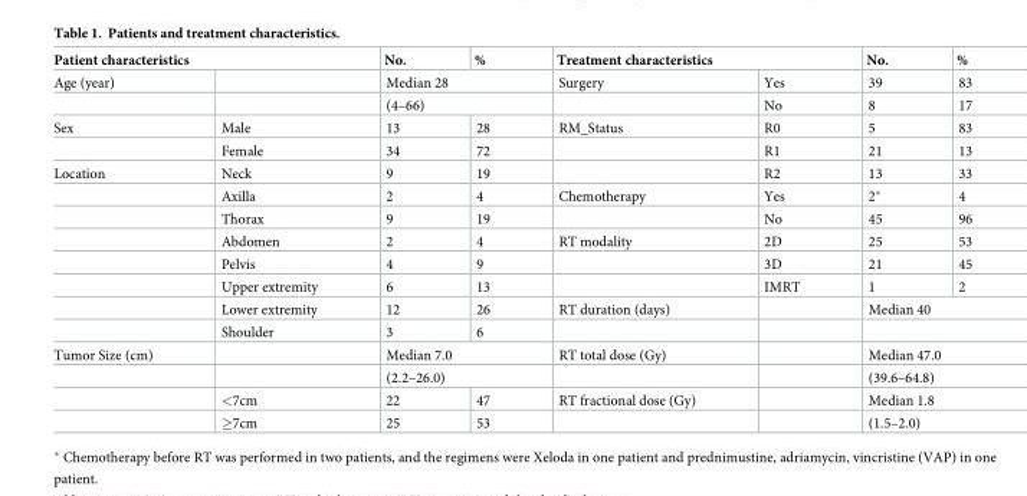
<table><thead><tr><td colspan="2">Patient characteristics</td><td>No.</td><td>%</td><td colspan="2">Treatment characteristics</td><td rowspan="2">No. 39</td><td rowspan="2">% 83</td></tr><tr><td>Age (year)</td><td></td><td colspan="2">Median 28</td><td>Surgery</td><td>Yes</td></tr></thead><tbody><tr><td></td><td></td><td colspan="2">(4–66)</td><td></td><td>No</td><td>8</td><td>17</td></tr><tr><td rowspan="2">Sex</td><td>Male</td><td>13</td><td>28</td><td>RM_Status</td><td>R0</td><td>5</td><td>83</td></tr><tr><td>Female</td><td>34</td><td>72</td><td></td><td>R1</td><td>21</td><td>13</td></tr><tr><td rowspan="8">Location</td><td>Neck</td><td>9</td><td>19</td><td></td><td>R2</td><td>13</td><td>33</td></tr><tr><td>Axilla</td><td>2</td><td>4</td><td>Chemotherapy</td><td>Yes</td><td>2*</td><td>4</td></tr><tr><td>Thorax</td><td>9</td><td>19</td><td></td><td>No</td><td>45</td><td>96</td></tr><tr><td>Abdomen</td><td>2</td><td>4</td><td>RT modality</td><td>2D</td><td>25</td><td>53</td></tr><tr><td>Pelvis</td><td>4</td><td>9</td><td></td><td>3D</td><td>21</td><td>45</td></tr><tr><td>Upper extremity</td><td>6</td><td>13</td><td></td><td>IMRT</td><td>1</td><td>2</td></tr><tr><td>Lower extremity</td><td>12</td><td>26</td><td>RT duration (days)</td><td></td><td colspan="2">Median 40</td></tr><tr><td>Shoulder</td><td>3</td><td>6</td><td></td><td></td><td colspan="2"></td></tr><tr><td rowspan="4">Tumor Size (cm)</td><td></td><td colspan="2">Median 7.0</td><td>RT total dose (Gy)</td><td></td><td colspan="2">Median 47.0</td></tr><tr><td></td><td colspan="2">(2.2–26.0)</td><td></td><td></td><td colspan="2">(39.6–64.8)</td></tr><tr><td>&lt;7cm</td><td>22</td><td>47</td><td>RT fractional dose (Gy)</td><td></td><td colspan="2">Median 1.8</td></tr><tr><td>≥7cm</td><td>25</td><td>53</td><td></td><td></td><td colspan="2">(1.5–2.0)</td></tr></tbody></table>